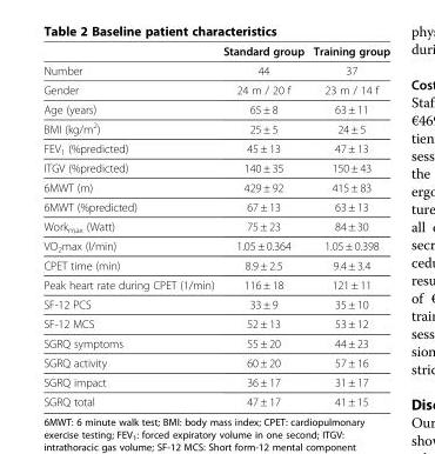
<table><thead><tr><td></td><td>Standard group</td><td>Training group</td></tr></thead><tbody><tr><td>Number</td><td>44</td><td>37</td></tr><tr><td>Gender</td><td>24 m / 20 f</td><td>23 m / 14 f</td></tr><tr><td>Age (years)</td><td>65 ± 8</td><td>63 ± 11</td></tr><tr><td>BMI (kg/m<sup>2</sup>)</td><td>25 ± 5</td><td>24 ± 5</td></tr><tr><td>FEV<sub>1</sub> (%predicted)</td><td>45 ± 13</td><td>47 ± 13</td></tr><tr><td>ITGV (%predicted)</td><td>140 ± 35</td><td>150 ± 43</td></tr><tr><td>6MWT (m)</td><td>429 ± 92</td><td>415 ± 83</td></tr><tr><td>6MWT (%predicted)</td><td>67 ± 13</td><td>63 ± 13</td></tr><tr><td>Work<sub>max</sub> (Watt)</td><td>75 ± 23</td><td>84 ± 30</td></tr><tr><td>VO<sub>2</sub>max (l/min)</td><td>1.05 ± 0.364</td><td>1.05 ± 0.398</td></tr><tr><td>CPET time (min)</td><td>8.9 ± 2.5</td><td>9.4 ± 3.4</td></tr><tr><td>Peak heart rate during CPET (1/min)</td><td>116 ± 18</td><td>121 ± 11</td></tr><tr><td>SF-12 PCS</td><td>33 ± 9</td><td>35 ± 10</td></tr><tr><td>SF-12 MCS</td><td>52 ± 13</td><td>53 ± 12</td></tr><tr><td>SGRQ symptoms</td><td>55 ± 20</td><td>44 ± 23</td></tr><tr><td>SGRQ activity</td><td>60 ± 20</td><td>57 ± 16</td></tr><tr><td>SGRQ impact</td><td>36 ± 17</td><td>31 ± 17</td></tr><tr><td>SGRQ total</td><td>47 ± 17</td><td>41 ± 15</td></tr></tbody></table>